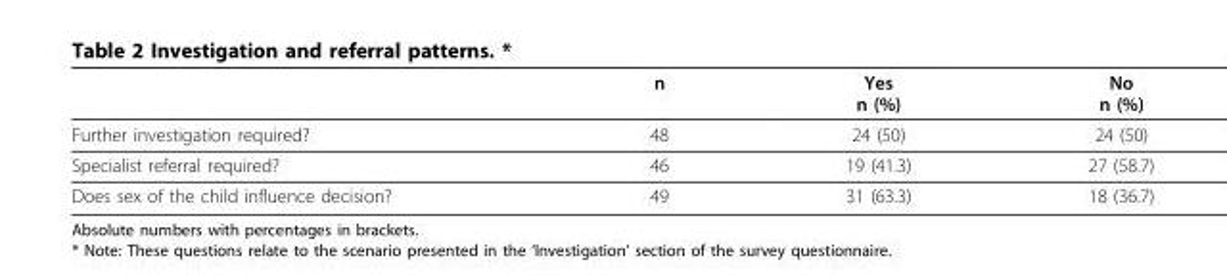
<table><thead><tr><td></td><td>n</td><td>Yes n (%)</td><td>No n (%)</td></tr></thead><tbody><tr><td>Further investigation required?</td><td>48</td><td>24 (50)</td><td>24 (50)</td></tr><tr><td>Specialist referral required?</td><td>46</td><td>19 (41.3)</td><td>27 (58.7)</td></tr><tr><td>Does sex of the child influence decision?</td><td>49</td><td>31 (63.3)</td><td>18 (36.7)</td></tr></tbody></table>